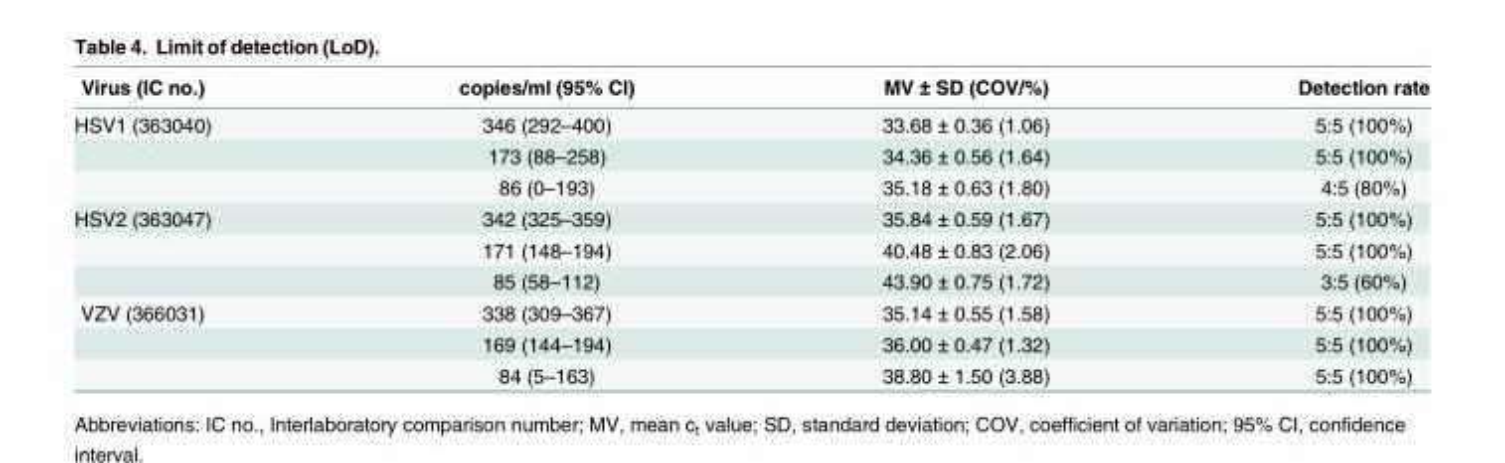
<table><thead><tr><td>Virus (IC no.)</td><td>copies/ml (95% CI)</td><td>MV ± SD (COV/%)</td><td>Detection rate</td></tr></thead><tbody><tr><td rowspan="3">HSV1 (363040)</td><td>346 (292–400)</td><td>33.68 ± 0.36 (1.06)</td><td>5:5 (100%)</td></tr><tr><td>173 (88–258)</td><td>34.36 ± 0.56 (1.64)</td><td>5:5 (100%)</td></tr><tr><td>86 (0–193)</td><td>35.18 ± 0.63 (1.80)</td><td>4:5 (80%)</td></tr><tr><td rowspan="3">HSV2 (363047)</td><td>342 (325–359)</td><td>35.84 ± 0.59 (1.67)</td><td>5:5 (100%)</td></tr><tr><td>171 (148–194)</td><td>40.48 ± 0.83 (2.06)</td><td>5:5 (100%)</td></tr><tr><td>85 (58–112)</td><td>43.90 ± 0.75 (1.72)</td><td>3:5 (60%)</td></tr><tr><td rowspan="3">VZV (366031)</td><td>338 (309–367)</td><td>35.14 ± 0.55 (1.58)</td><td>5:5 (100%)</td></tr><tr><td>169 (144–194)</td><td>36.00 ± 0.47 (1.32)</td><td>5:5 (100%)</td></tr><tr><td>84 (5–163)</td><td>38.80 ± 1.50 (3.88)</td><td>5:5 (100%)</td></tr></tbody></table>